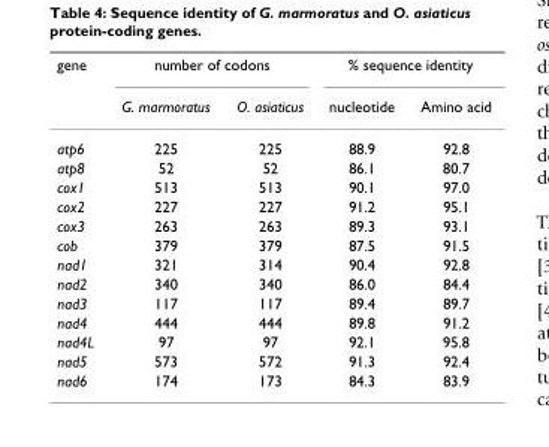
<table><thead><tr><td rowspan="2">gene</td><td colspan="2">number of codons</td><td colspan="2">% sequence identity</td></tr><tr><td>G. marmoratus</td><td>O. asiaticus</td><td>nucleotide</td><td>Amino acid</td></tr></thead><tbody><tr><td>atp6</td><td>225</td><td>225</td><td>88.9</td><td>92.8</td></tr><tr><td>atp8</td><td>52</td><td>52</td><td>86.1</td><td>80.7</td></tr><tr><td>cox1</td><td>513</td><td>513</td><td>90.1</td><td>97.0</td></tr><tr><td>cox2</td><td>227</td><td>227</td><td>91.2</td><td>95.1</td></tr><tr><td>cox3</td><td>263</td><td>263</td><td>89.3</td><td>93.1</td></tr><tr><td>cob</td><td>379</td><td>379</td><td>87.5</td><td>91.5</td></tr><tr><td>nad1</td><td>321</td><td>314</td><td>90.4</td><td>92.8</td></tr><tr><td>nad2</td><td>340</td><td>340</td><td>86.0</td><td>84.4</td></tr><tr><td>nad3</td><td>117</td><td>117</td><td>89.4</td><td>89.7</td></tr><tr><td>nad4</td><td>444</td><td>444</td><td>89.8</td><td>91.2</td></tr><tr><td>nad4L</td><td>97</td><td>97</td><td>92.1</td><td>95.8</td></tr><tr><td>nad5</td><td>573</td><td>572</td><td>91.3</td><td>92.4</td></tr><tr><td>nad6</td><td>174</td><td>173</td><td>84.3</td><td>83.9</td></tr></tbody></table>